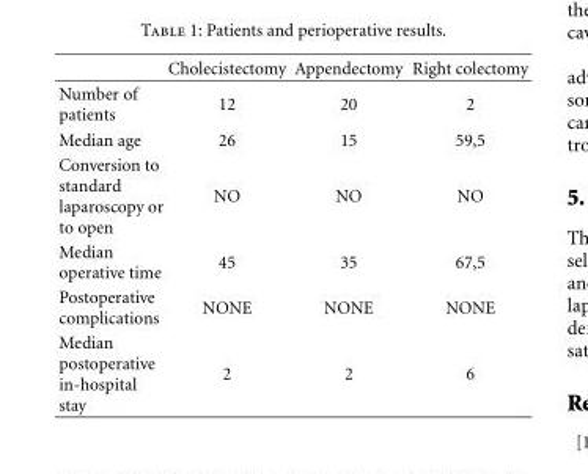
<table><thead><tr><td></td><td>Cholecistectomy</td><td>Appendectomy</td><td>Right colectomy</td></tr></thead><tbody><tr><td>Number of patients</td><td>12</td><td>20</td><td>2</td></tr><tr><td>Median age</td><td>26</td><td>15</td><td>59,5</td></tr><tr><td>Conversion to standard laparoscopy or to open</td><td>NO</td><td>NO</td><td>NO</td></tr><tr><td>Median operative time</td><td>45</td><td>35</td><td>67,5</td></tr><tr><td>Postoperative complications</td><td>NONE</td><td>NONE</td><td>NONE</td></tr><tr><td>Median postoperative in-hospital stay</td><td>2</td><td>2</td><td>6</td></tr></tbody></table>